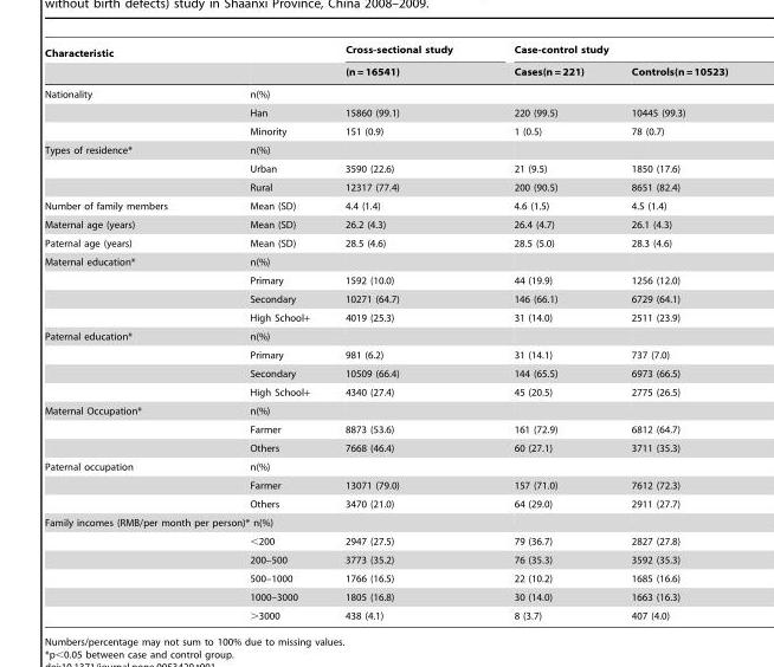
<table><thead><tr><td rowspan="2">Characteristic</td><td rowspan="2"></td><td rowspan="2">Cross-sectional study (n = 16541)</td><td colspan="2">Case-control study</td></tr><tr><td>Cases(n = 221)</td><td>Controls(n = 10523)</td></tr></thead><tbody><tr><td rowspan="3">Nationality</td><td>n(%)</td><td></td><td></td><td></td></tr><tr><td>Han</td><td>15860 (99.1)</td><td>220 (99.5)</td><td>10445 (99.3)</td></tr><tr><td>Minority</td><td>151 (0.9)</td><td>1 (0.5)</td><td>78 (0.7)</td></tr><tr><td rowspan="3">Types of residence*</td><td>n(%)</td><td></td><td></td><td></td></tr><tr><td>Urban</td><td>3590 (22.6)</td><td>21 (9.5)</td><td>1850 (17.6)</td></tr><tr><td>Rural</td><td>12317 (77.4)</td><td>200 (90.5)</td><td>8651 (82.4)</td></tr><tr><td>Number of family members</td><td>Mean (SD)</td><td>4.4 (1.4)</td><td>4.6 (1.5)</td><td>4.5 (1.4)</td></tr><tr><td>Maternal age (years)</td><td>Mean (SD)</td><td>26.2 (4.3)</td><td>26.4 (4.7)</td><td>26.1 (4.3)</td></tr><tr><td>Paternal age (years)</td><td>Mean (SD)</td><td>28.5 (4.6)</td><td>28.5 (5.0)</td><td>28.3 (4.6)</td></tr><tr><td rowspan="4">Maternal education*</td><td>n(%)</td><td></td><td></td><td></td></tr><tr><td>Primary</td><td>1592 (10.0)</td><td>44 (19.9)</td><td>1256 (12.0)</td></tr><tr><td>Secondary</td><td>10271 (64.7)</td><td>146 (66.1)</td><td>6729 (64.1)</td></tr><tr><td>High School+</td><td>4019 (25.3)</td><td>31 (14.0)</td><td>2511 (23.9)</td></tr><tr><td rowspan="4">Paternal education*</td><td>n(%)</td><td></td><td></td><td></td></tr><tr><td>Primary</td><td>981 (6.2)</td><td>31 (14.1)</td><td>737 (7.0)</td></tr><tr><td>Secondary</td><td>10509 (66.4)</td><td>144 (65.5)</td><td>6973 (66.5)</td></tr><tr><td>High School+</td><td>4340 (27.4)</td><td>45 (20.5)</td><td>2775 (26.5)</td></tr><tr><td rowspan="3">Maternal Occupation*</td><td>n(%)</td><td></td><td></td><td></td></tr><tr><td>Farmer</td><td>8873 (53.6)</td><td>161 (72.9)</td><td>6812 (64.7)</td></tr><tr><td>Others</td><td>7668 (46.4)</td><td>60 (27.1)</td><td>3711 (35.3)</td></tr><tr><td rowspan="3">Paternal occupation</td><td>n(%)</td><td></td><td></td><td></td></tr><tr><td>Farmer</td><td>13071 (79.0)</td><td>157 (71.0)</td><td>7612 (72.3)</td></tr><tr><td>Others</td><td>3470 (21.0)</td><td>64 (29.0)</td><td>2911 (27.7)</td></tr><tr><td colspan="5">Family incomes (RMB/per month per person)* n(%)</td></tr><tr><td></td><td>&lt;200</td><td>2947 (27.5)</td><td>79 (36.7)</td><td>2827 (27.8)</td></tr><tr><td></td><td>200–500</td><td>3773 (35.2)</td><td>76 (35.3)</td><td>3592 (35.3)</td></tr><tr><td></td><td>500–1000</td><td>1766 (16.5)</td><td>22 (10.2)</td><td>1685 (16.6)</td></tr><tr><td></td><td>1000–3000</td><td>1805 (16.8)</td><td>30 (14.0)</td><td>1663 (16.3)</td></tr><tr><td></td><td>&gt;3000</td><td>438 (4.1)</td><td>8 (3.7)</td><td>407 (4.0)</td></tr></tbody></table>